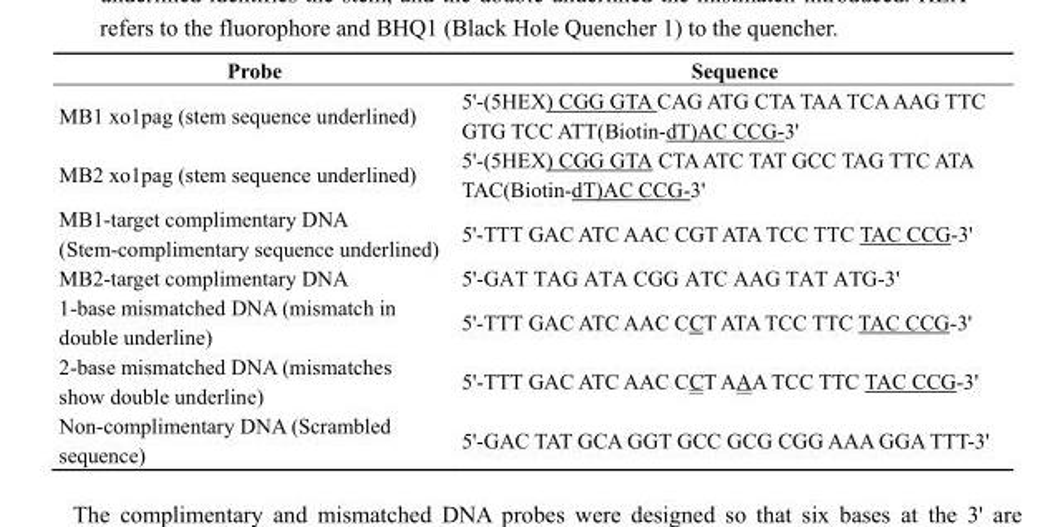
<table><thead><tr><td>Probe</td><td>Sequence</td></tr></thead><tbody><tr><td>MB1 xo1pag (stem sequence underlined)</td><td>5&#x27;-(5HEX) CGG GTA CAG ATG CTA TAA TCA AAG TTC GTG TCC ATT(Biotin-dT)AC CCG-3&#x27;</td></tr><tr><td>MB2 xo1pag (stem sequence underlined)</td><td>5&#x27;-(5HEX) CGG GTA CTA ATC TAT GCC TAG TTC ATA TAC(Biotin-dT)AC CCG-3&#x27;</td></tr><tr><td>MB1-target complimentary DNA (Stem-complimentary sequence underlined)</td><td>5&#x27;-TTT GAC ATC AAC CGT ATA TCC TTC TAC CCG-3&#x27;</td></tr><tr><td>MB2-target complimentary DNA</td><td>5&#x27;-GAT TAG ATA CGG ATC AAG TAT ATG-3&#x27;</td></tr><tr><td>1-base mismatched DNA (mismatch in double underline)</td><td>5&#x27;-TTT GAC ATC AAC CCT ATA TCC TTC TAC CCG-3&#x27;</td></tr><tr><td>2-base mismatched DNA (mismatches show double underline)</td><td>5&#x27;-TTT GAC ATC AAC CCT AAA TCC TTC TAC CCG-3&#x27;</td></tr><tr><td>Non-complimentary DNA (Scrambled sequence)</td><td>5&#x27;-GAC TAT GCA GGT GCC GCG CGG AAA GGA TTT-3&#x27;</td></tr></tbody></table>